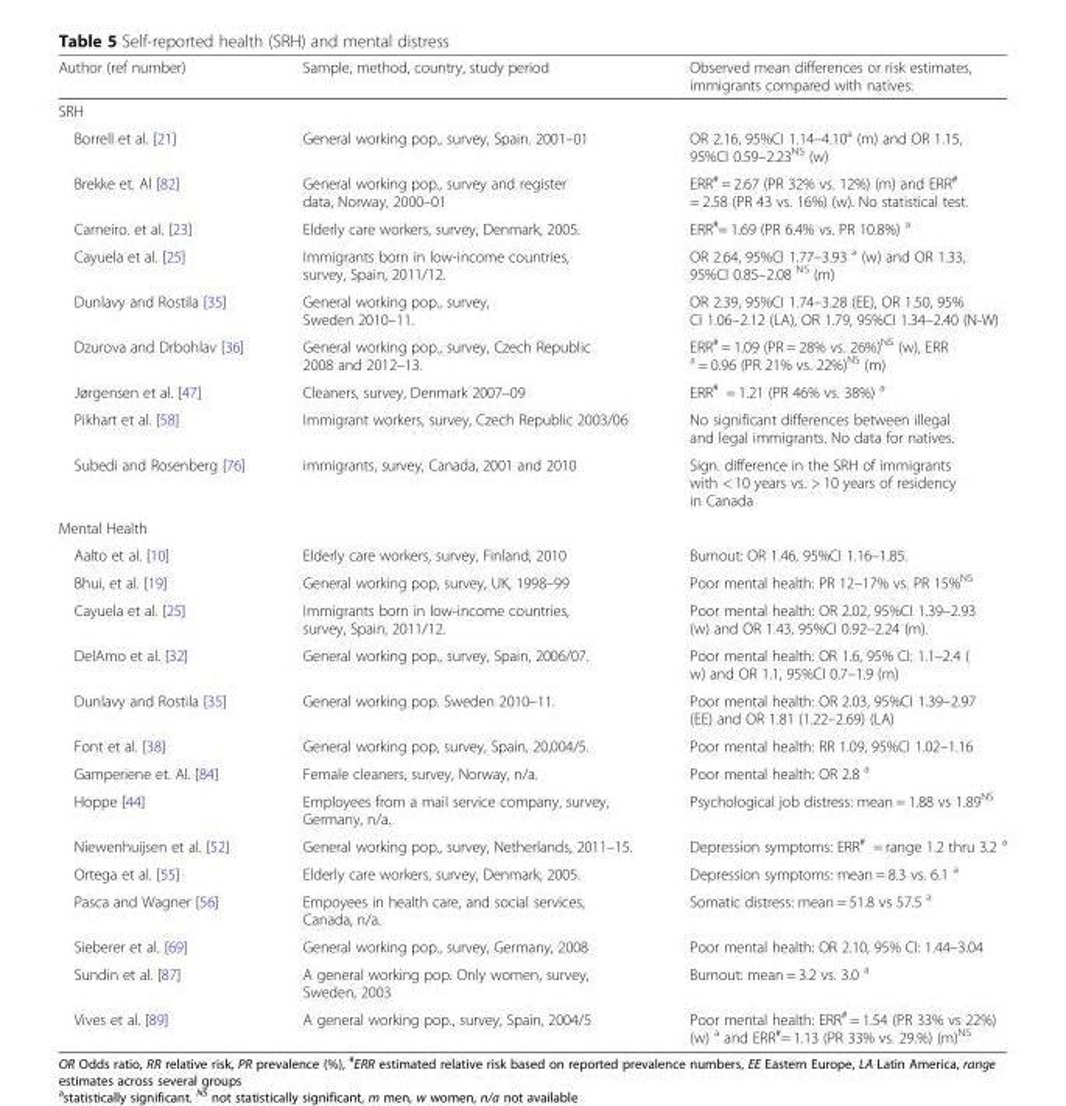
<table><thead><tr><td>Author (ref number)</td><td>Sample, method, country, study period</td><td>Observed mean differences or risk estimates, immigrants compared with natives:</td></tr></thead><tbody><tr><td colspan="3">SRH</td></tr><tr><td>Borrell et al. [21]</td><td>General working pop., survey, Spain. 2001–01</td><td>OR 2.16, 95%CI 1.14–4.10<sup>a</sup> (m) and OR 1.15, 95%CI 0.59–2.23<sup>NS</sup> (w)</td></tr><tr><td>Brekke et. Al [82]</td><td>General working pop., survey and register data, Norway, 2000–01</td><td>ERR<sup>#</sup> = 2.67 (PR 32% vs. 12%) (m) and ERR<sup>#</sup> = 2.58 (PR 43 vs. 16%) (w). No statistical test.</td></tr><tr><td>Carneiro. et al. [23]</td><td>Elderly care workers, survey, Denmark, 2005.</td><td>ERR<sup>#</sup>= 1.69 (PR 6.4% vs. PR 10.8%) <sup>a</sup></td></tr><tr><td>Cayuela et al. [25]</td><td>Immigrants born in low-income countries, survey, Spain, 2011/12.</td><td>OR 2.64, 95%CI 1.77–3.93 <sup>a</sup> (w) and OR 1.33, 95%CI 0.85–2.08 <sup>NS</sup> (m)</td></tr><tr><td>Dunlavy and Rostila [35]</td><td>General working pop., survey, Sweden 2010–11.</td><td>OR 2.39, 95%CI 1.74–3.28 (EE), OR 1.50, 95% CI 1.06–2.12 (LA), OR 1.79, 95%CI 1.34–2.40 (N-W)</td></tr><tr><td>Dzurova and Drbohlav [36]</td><td>General working pop., survey, Czech Republic 2008 and 2012–13.</td><td>ERR<sup>#</sup> = 1.09 (PR = 28% vs. 26%)<sup>NS</sup> (w), ERR <sup>a</sup> = 0.96 (PR 21% vs. 22%)<sup>NS</sup> (m)</td></tr><tr><td>Jørgensen et al. [47]</td><td>Cleaners, survey, Denmark 2007–09</td><td>ERR<sup>#</sup> = 1.21 (PR 46% vs. 38%) <sup>a</sup></td></tr><tr><td>Pikhart et al. [58]</td><td>Immigrant workers, survey, Czech Republic 2003/06</td><td>No significant differences between illegal and legal immigrants. No data for natives.</td></tr><tr><td>Subedi and Rosenberg [76]</td><td>immigrants, survey, Canada, 2001 and 2010</td><td>Sign. difference in the SRH of immigrants with &lt; 10 years vs. &gt; 10 years of residency in Canada</td></tr><tr><td colspan="3">Mental Health</td></tr><tr><td>Aalto et al. [10]</td><td>Elderly care workers, survey, Finland, 2010</td><td>Burnout: OR 1.46, 95%CI 1.16–1.85.</td></tr><tr><td>Bhui, et al. [19]</td><td>General working pop, survey, UK, 1998–99</td><td>Poor mental health: PR 12–17% vs. PR 15%<sup>NS</sup></td></tr><tr><td>Cayuela et al. [25]</td><td>Immigrants born in low-income countries, survey, Spain, 2011/12.</td><td>Poor mental health: OR 2.02, 95%CI 1.39–2.93 (w) and OR 1.43, 95%CI 0.92–2.24 (m).</td></tr><tr><td>DelAmo et al. [32]</td><td>General working pop., survey, Spain, 2006/07.</td><td>Poor mental health: OR 1.6, 95% CI: 1.1–2.4 ( w) and OR 1.1, 95%CI 0.7–1.9 (m)</td></tr><tr><td>Dunlavy and Rostila [35]</td><td>General working pop. Sweden 2010–11.</td><td>Poor mental health: OR 2.03, 95%CI 1.39–2.97 (EE) and OR 1.81 (1.22–2.69) (LA)</td></tr><tr><td>Font et al. [38]</td><td>General working pop, survey, Spain, 20,004/5.</td><td>Poor mental health: RR 1.09, 95%CI 1.02–1.16</td></tr><tr><td>Gamperiene et. Al. [84]</td><td>Female cleaners, survey, Norway, n/a.</td><td>Poor mental health: OR 2.8 <sup>a</sup></td></tr><tr><td>Hoppe [44]</td><td>Employees from a mail service company, survey, Germany, n/a.</td><td>Psychological job distress: mean = 1.88 vs 1.89<sup>NS</sup></td></tr><tr><td>Niewenhuijsen et al. [52]</td><td>General working pop., survey, Netherlands, 2011–15.</td><td>Depression symptoms: ERR<sup>#</sup> = range 1.2 thru 3.2 <sup>a</sup></td></tr><tr><td>Ortega et al. [55]</td><td>Elderly care workers, survey, Denmark, 2005.</td><td>Depression symptoms: mean = 8.3 vs. 6.1 <sup>a</sup></td></tr><tr><td>Pasca and Wagner [56]</td><td>Empoyees in health care, and social services, Canada, n/a.</td><td>Somatic distress: mean = 51.8 vs 57.5 <sup>a</sup></td></tr><tr><td>Sieberer et al. [69]</td><td>General working pop., survey, Germany, 2008</td><td>Poor mental health: OR 2.10, 95% CI: 1.44–3.04</td></tr><tr><td>Sundin et al. [87]</td><td>A general working pop. Only women, survey, Sweden, 2003</td><td>Burnout: mean = 3.2 vs. 3.0 <sup>a</sup></td></tr><tr><td>Vives et al. [89]</td><td>A general working pop., survey, Spain, 2004/5</td><td>Poor mental health: ERR<sup>#</sup> = 1.54 (PR 33% vs 22%) (w) <sup>a</sup> and ERR<sup>#</sup>= 1.13 (PR 33% vs. 29.%) (m)<sup>NS</sup></td></tr></tbody></table>